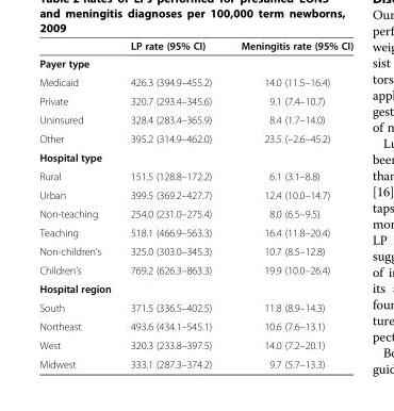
<table><thead><tr><td></td><td>LP rate (95% CI)</td><td>Meningitis rate (95% CI)</td></tr></thead><tbody><tr><td colspan="3">Payer type</td></tr><tr><td>Medicaid</td><td>426.3 (394.9–455.2)</td><td>14.0 (11.5–16.4)</td></tr><tr><td>Private</td><td>320.7 (293.4–345.6)</td><td>9.1 (7.4–10.7)</td></tr><tr><td>Uninsured</td><td>328.4 (283.4–365.9)</td><td>8.4 (1.7–14.0)</td></tr><tr><td>Other</td><td>395.2 (314.9–462.0)</td><td>23.5 (–2.6–45.2)</td></tr><tr><td colspan="3">Hospital type</td></tr><tr><td>Rural</td><td>151.5 (128.8–172.2)</td><td>6.1 (3.1–8.8)</td></tr><tr><td>Urban</td><td>399.5 (369.2–427.7)</td><td>12.4 (10.0–14.7)</td></tr><tr><td>Non-teaching</td><td>254.0 (231.0–275.4)</td><td>8.0 (6.5–9.5)</td></tr><tr><td>Teaching</td><td>518.1 (466.9–563.3)</td><td>16.4 (11.8–20.4)</td></tr><tr><td>Non-children’s</td><td>325.0 (303.0–345.3)</td><td>10.7 (8.5–12.8)</td></tr><tr><td>Children’s</td><td>769.2 (626.3–863.3)</td><td>19.9 (10.0–26.4)</td></tr><tr><td colspan="3">Hospital region</td></tr><tr><td>South</td><td>371.5 (336.5–402.5)</td><td>11.8 (8.9–14.3)</td></tr><tr><td>Northeast</td><td>493.6 (434.1–545.1)</td><td>10.6 (7.6–13.1)</td></tr><tr><td>West</td><td>320.3 (233.8–397.5)</td><td>14.0 (7.2–20.1)</td></tr><tr><td>Midwest</td><td>333.1 (287.3–374.2)</td><td>9.7 (5.7–13.3)</td></tr></tbody></table>